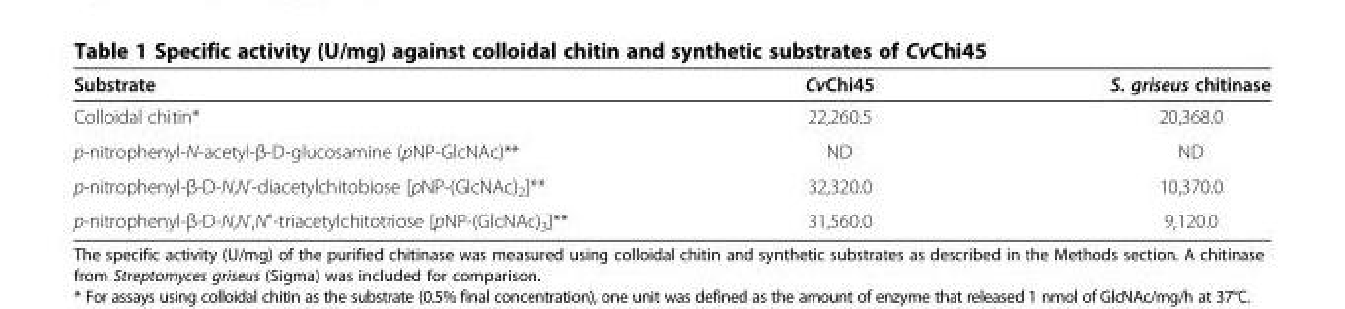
<table><thead><tr><td>Substrate</td><td>CvChi45</td><td>S. griseus chitinase</td></tr></thead><tbody><tr><td>Colloidal chitin*</td><td>22,260.5</td><td>20,368.0</td></tr><tr><td>p-nitrophenyl-N-acetyl-β-D-glucosamine (pNP-GlcNAc)**</td><td>ND</td><td>ND</td></tr><tr><td>p-nitrophenyl-β-D-N,N’-diacetylchitobiose [pNP-(GlcNAc)<sub>2</sub>]**</td><td>32,320.0</td><td>10,370.0</td></tr><tr><td>p-nitrophenyl-β-D-N,N’,N”-triacetylchitotriose [pNP-(GlcNAc)<sub>3</sub>]**</td><td>31,560.0</td><td>9,120.0</td></tr></tbody></table>